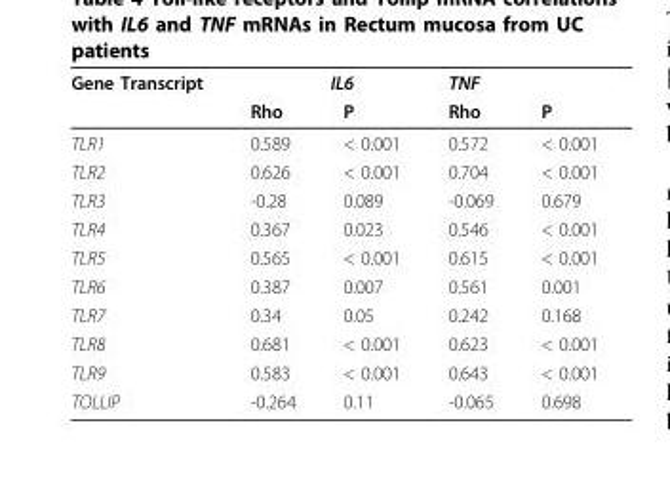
<table><thead><tr><td rowspan="2">Gene Transcript</td><td colspan="2">IL6</td><td colspan="2">TNF</td></tr><tr><td>Rho</td><td>P</td><td>Rho</td><td>P</td></tr></thead><tbody><tr><td>TLR1</td><td>0.589</td><td>&lt; 0.001</td><td>0.572</td><td>&lt; 0.001</td></tr><tr><td>TLR2</td><td>0.626</td><td>&lt; 0.001</td><td>0.704</td><td>&lt; 0.001</td></tr><tr><td>TLR3</td><td>-0.28</td><td>0.089</td><td>-0.069</td><td>0.679</td></tr><tr><td>TLR4</td><td>0.367</td><td>0.023</td><td>0.546</td><td>&lt; 0.001</td></tr><tr><td>TLR5</td><td>0.565</td><td>&lt; 0.001</td><td>0.615</td><td>&lt; 0.001</td></tr><tr><td>TLR6</td><td>0.387</td><td>0.007</td><td>0.561</td><td>0.001</td></tr><tr><td>TLR7</td><td>0.34</td><td>0.05</td><td>0.242</td><td>0.168</td></tr><tr><td>TLR8</td><td>0.681</td><td>&lt; 0.001</td><td>0.623</td><td>&lt; 0.001</td></tr><tr><td>TLR9</td><td>0.583</td><td>&lt; 0.001</td><td>0.643</td><td>&lt; 0.001</td></tr><tr><td>TOLLIP</td><td>-0.264</td><td>0.11</td><td>-0.065</td><td>0.698</td></tr></tbody></table>